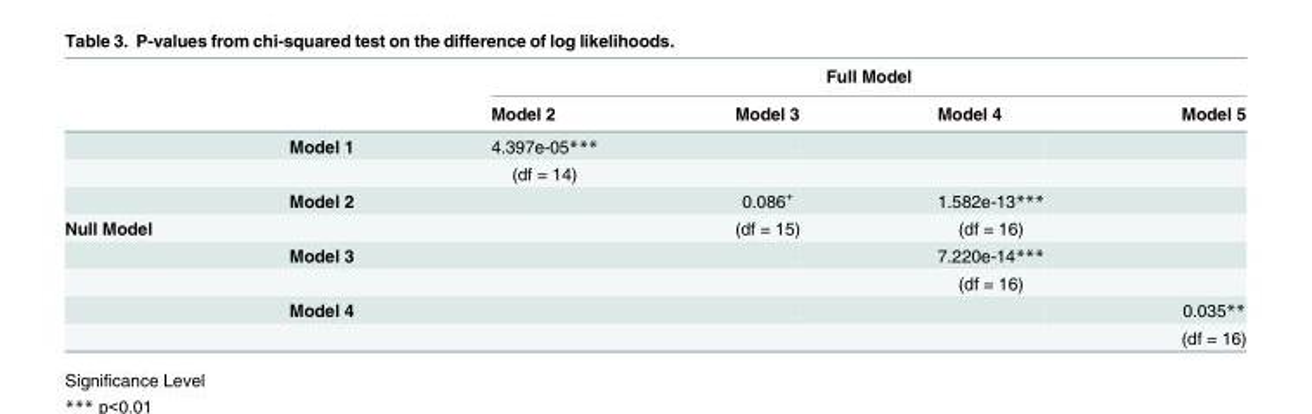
<table><thead><tr><td rowspan="2"></td><td rowspan="2"></td><td colspan="4">Full Model</td></tr><tr><td>Model 2</td><td>Model 3</td><td>Model 4</td><td>Model 5</td></tr></thead><tbody><tr><td></td><td>Model 1</td><td>4.397e-05***</td><td></td><td></td><td></td></tr><tr><td></td><td></td><td>(df = 14)</td><td></td><td></td><td></td></tr><tr><td></td><td>Model 2</td><td></td><td>0.086<sup>+</sup></td><td>1.582e-13***</td><td></td></tr><tr><td rowspan="5">Null Model</td><td></td><td></td><td>(df = 15)</td><td>(df = 16)</td><td></td></tr><tr><td>Model 3</td><td></td><td></td><td>7.220e-14***</td><td></td></tr><tr><td></td><td></td><td></td><td>(df = 16)</td><td></td></tr><tr><td>Model 4</td><td></td><td></td><td></td><td>0.035**</td></tr><tr><td></td><td></td><td></td><td></td><td>(df = 16)</td></tr></tbody></table>